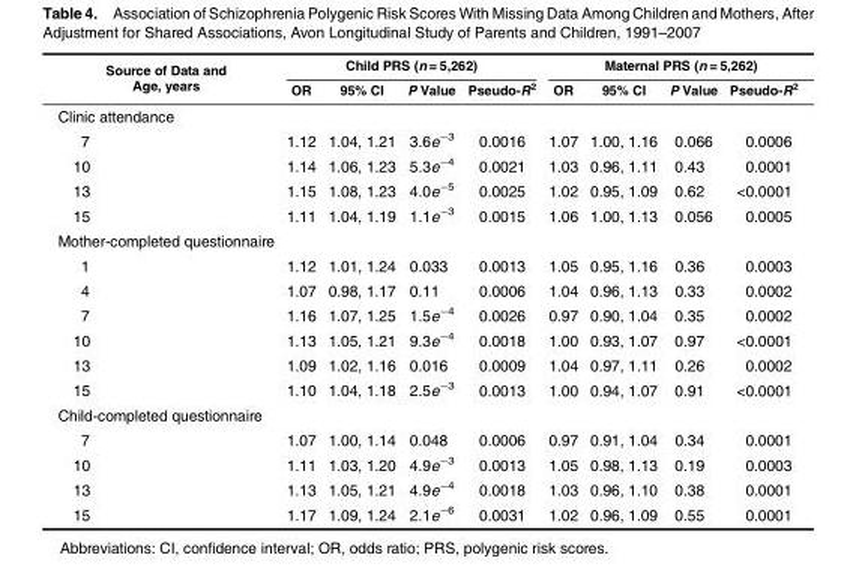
<table><thead><tr><td rowspan="2">Source of Data and Age, years</td><td colspan="4">Child PRS (n = 5,262)</td><td colspan="4">Maternal PRS (n = 5,262)</td></tr><tr><td>OR</td><td>95% CI</td><td>P Value</td><td>Pseudo-R<sup>2</sup></td><td>OR</td><td>95% CI</td><td>P Value</td><td>Pseudo-R<sup>2</sup></td></tr></thead><tbody><tr><td colspan="9">Clinic attendance</td></tr><tr><td>7</td><td>1.12</td><td>1.04, 1.21</td><td>3.6e<sup>−3</sup></td><td>0.0016</td><td>1.07</td><td>1.00, 1.16</td><td>0.066</td><td>0.0006</td></tr><tr><td>10</td><td>1.14</td><td>1.06, 1.23</td><td>5.3e<sup>−4</sup></td><td>0.0021</td><td>1.03</td><td>0.96, 1.11</td><td>0.43</td><td>0.0001</td></tr><tr><td>13</td><td>1.15</td><td>1.08, 1.23</td><td>4.0e<sup>−5</sup></td><td>0.0025</td><td>1.02</td><td>0.95, 1.09</td><td>0.62</td><td>&lt;0.0001</td></tr><tr><td>15</td><td>1.11</td><td>1.04, 1.19</td><td>1.1e<sup>−3</sup></td><td>0.0015</td><td>1.06</td><td>1.00, 1.13</td><td>0.056</td><td>0.0005</td></tr><tr><td colspan="9">Mother-completed questionnaire</td></tr><tr><td>1</td><td>1.12</td><td>1.01, 1.24</td><td>0.033</td><td>0.0013</td><td>1.05</td><td>0.95, 1.16</td><td>0.36</td><td>0.0003</td></tr><tr><td>4</td><td>1.07</td><td>0.98, 1.17</td><td>0.11</td><td>0.0006</td><td>1.04</td><td>0.96, 1.13</td><td>0.33</td><td>0.0002</td></tr><tr><td>7</td><td>1.16</td><td>1.07, 1.25</td><td>1.5e<sup>−4</sup></td><td>0.0026</td><td>0.97</td><td>0.90, 1.04</td><td>0.35</td><td>0.0002</td></tr><tr><td>10</td><td>1.13</td><td>1.05, 1.21</td><td>9.3e<sup>−4</sup></td><td>0.0018</td><td>1.00</td><td>0.93, 1.07</td><td>0.97</td><td>&lt;0.0001</td></tr><tr><td>13</td><td>1.09</td><td>1.02, 1.16</td><td>0.016</td><td>0.0009</td><td>1.04</td><td>0.97, 1.11</td><td>0.26</td><td>0.0002</td></tr><tr><td>15</td><td>1.10</td><td>1.04, 1.18</td><td>2.5e<sup>−3</sup></td><td>0.0013</td><td>1.00</td><td>0.94, 1.07</td><td>0.91</td><td>&lt;0.0001</td></tr><tr><td colspan="9">Child-completed questionnaire</td></tr><tr><td>7</td><td>1.07</td><td>1.00, 1.14</td><td>0.048</td><td>0.0006</td><td>0.97</td><td>0.91, 1.04</td><td>0.34</td><td>0.0001</td></tr><tr><td>10</td><td>1.11</td><td>1.03, 1.20</td><td>4.9e<sup>−3</sup></td><td>0.0013</td><td>1.05</td><td>0.98, 1.13</td><td>0.19</td><td>0.0003</td></tr><tr><td>13</td><td>1.13</td><td>1.05, 1.21</td><td>4.9e<sup>−4</sup></td><td>0.0018</td><td>1.03</td><td>0.96, 1.10</td><td>0.38</td><td>0.0001</td></tr><tr><td>15</td><td>1.17</td><td>1.09, 1.24</td><td>2.1e<sup>−6</sup></td><td>0.0031</td><td>1.02</td><td>0.96, 1.09</td><td>0.55</td><td>0.0001</td></tr></tbody></table>